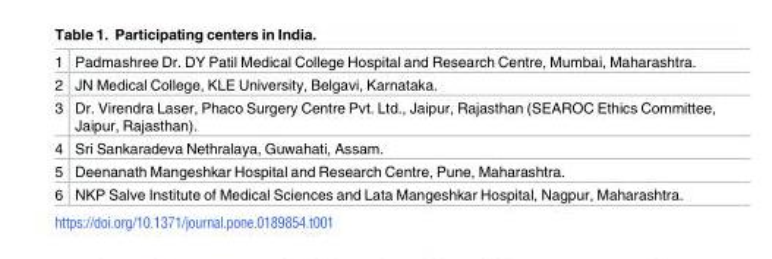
<table><tbody><tr><td>1</td><td>Padmashree Dr. DY Patil Medical College Hospital and Research Centre, Mumbai, Maharashtra.</td></tr><tr><td>2</td><td>JN Medical College, KLE University, Belgavi, Karnataka.</td></tr><tr><td>3</td><td>Dr. Virendra Laser, Phaco Surgery Centre Pvt. Ltd., Jaipur, Rajasthan (SEAROC Ethics Committee, Jaipur, Rajasthan).</td></tr><tr><td>4</td><td>Sri Sankaradeva Nethralaya, Guwahati, Assam.</td></tr><tr><td>5</td><td>Deenanath Mangeshkar Hospital and Research Centre, Pune, Maharashtra.</td></tr><tr><td>6</td><td>NKP Salve Institute of Medical Sciences and Lata Mangeshkar Hospital, Nagpur, Maharashtra.</td></tr></tbody></table>